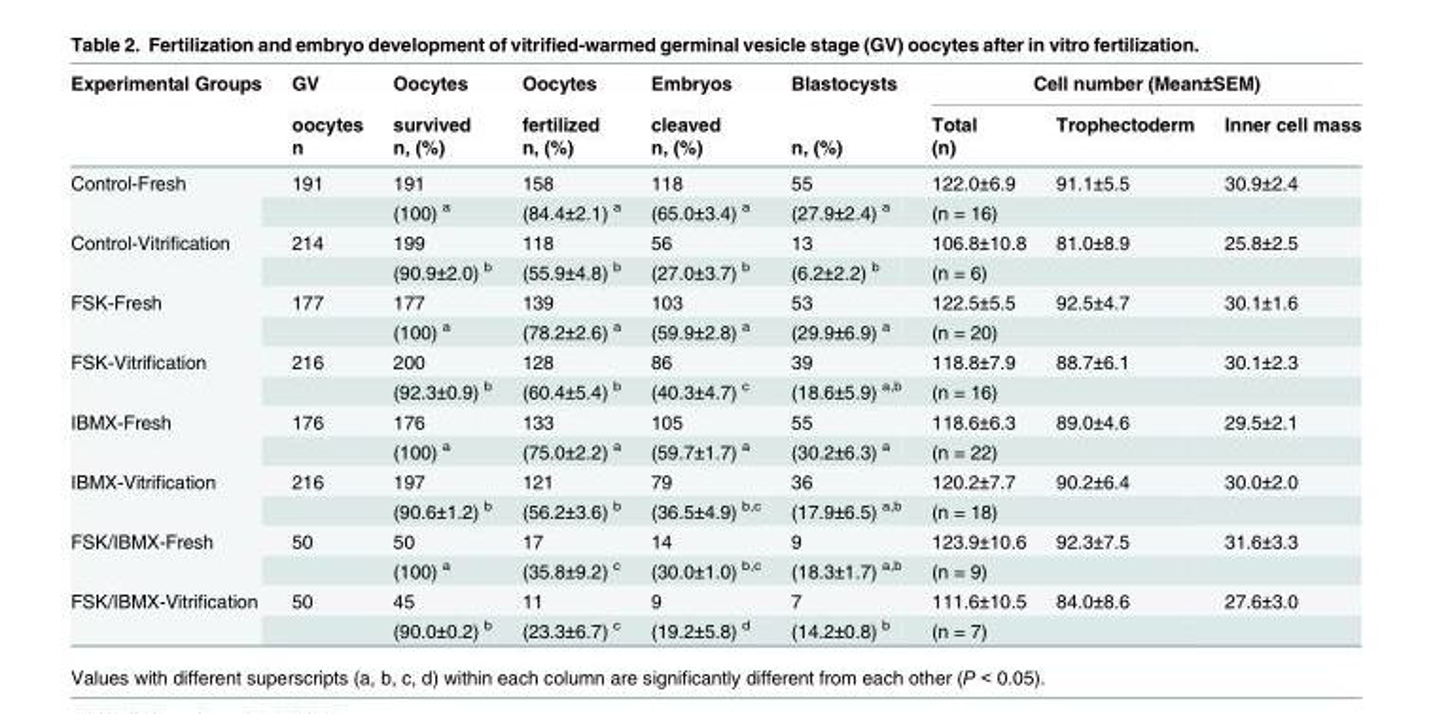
<table><thead><tr><td rowspan="3">Experimental Groups</td><td rowspan="3">GV oocytes n</td><td rowspan="3">Oocytes survived n, (%)</td><td rowspan="3">Oocytes fertilized n, (%)</td><td rowspan="3">Embryos cleaved n, (%)</td><td rowspan="3">Blastocysts n, (%)</td><td colspan="3">Cell number (Mean±SEM)</td></tr><tr><td rowspan="2">Total (n)</td><td rowspan="2">Trophectoderm</td><td rowspan="2">Inner cell mass</td></tr><tr></tr></thead><tbody><tr><td rowspan="2">Control-Fresh</td><td>191</td><td>191</td><td>158</td><td>118</td><td>55</td><td>122.0±6.9</td><td>91.1±5.5</td><td>30.9±2.4</td></tr><tr><td></td><td>(100) <sup>a</sup></td><td>(84.4±2.1) <sup>a</sup></td><td>(65.0±3.4) <sup>a</sup></td><td>(27.9±2.4) <sup>a</sup></td><td>(n = 16)</td><td></td><td></td></tr><tr><td rowspan="2">Control-Vitrification</td><td>214</td><td>199</td><td>118</td><td>56</td><td>13</td><td>106.8±10.8</td><td>81.0±8.9</td><td>25.8±2.5</td></tr><tr><td></td><td>(90.9±2.0) <sup>b</sup></td><td>(55.9±4.8) <sup>b</sup></td><td>(27.0±3.7) <sup>b</sup></td><td>(6.2±2.2) <sup>b</sup></td><td>(n = 6)</td><td></td><td></td></tr><tr><td rowspan="2">FSK-Fresh</td><td>177</td><td>177</td><td>139</td><td>103</td><td>53</td><td>122.5±5.5</td><td>92.5±4.7</td><td>30.1±1.6</td></tr><tr><td></td><td>(100) <sup>a</sup></td><td>(78.2±2.6) <sup>a</sup></td><td>(59.9±2.8) <sup>a</sup></td><td>(29.9±6.9) <sup>a</sup></td><td>(n = 20)</td><td></td><td></td></tr><tr><td rowspan="2">FSK-Vitrification</td><td>216</td><td>200</td><td>128</td><td>86</td><td>39</td><td>118.8±7.9</td><td>88.7±6.1</td><td>30.1±2.3</td></tr><tr><td></td><td>(92.3±0.9) <sup>b</sup></td><td>(60.4±5.4) <sup>b</sup></td><td>(40.3±4.7) <sup>c</sup></td><td>(18.6±5.9) <sup>a,b</sup></td><td>(n = 16)</td><td></td><td></td></tr><tr><td rowspan="2">IBMX-Fresh</td><td>176</td><td>176</td><td>133</td><td>105</td><td>55</td><td>118.6±6.3</td><td>89.0±4.6</td><td>29.5±2.1</td></tr><tr><td></td><td>(100) <sup>a</sup></td><td>(75.0±2.2) <sup>a</sup></td><td>(59.7±1.7) <sup>a</sup></td><td>(30.2±6.3) <sup>a</sup></td><td>(n = 22)</td><td></td><td></td></tr><tr><td rowspan="2">IBMX-Vitrification</td><td>216</td><td>197</td><td>121</td><td>79</td><td>36</td><td>120.2±7.7</td><td>90.2±6.4</td><td>30.0±2.0</td></tr><tr><td></td><td>(90.6±1.2) <sup>b</sup></td><td>(56.2±3.6) <sup>b</sup></td><td>(36.5±4.9) <sup>b,c</sup></td><td>(17.9±6.5) <sup>a,b</sup></td><td>(n = 18)</td><td></td><td></td></tr><tr><td rowspan="2">FSK/IBMX-Fresh</td><td>50</td><td>50</td><td>17</td><td>14</td><td>9</td><td>123.9±10.6</td><td>92.3±7.5</td><td>31.6±3.3</td></tr><tr><td></td><td>(100) <sup>a</sup></td><td>(35.8±9.2) <sup>c</sup></td><td>(30.0±1.0) <sup>b,c</sup></td><td>(18.3±1.7) <sup>a,b</sup></td><td>(n = 9)</td><td></td><td></td></tr><tr><td rowspan="2">FSK/IBMX-Vitrification</td><td>50</td><td>45</td><td>11</td><td>9</td><td>7</td><td>111.6±10.5</td><td>84.0±8.6</td><td>27.6±3.0</td></tr><tr><td></td><td>(90.0±0.2) <sup>b</sup></td><td>(23.3±6.7) <sup>c</sup></td><td>(19.2±5.8) <sup>d</sup></td><td>(14.2±0.8) <sup>b</sup></td><td>(n = 7)</td><td></td><td></td></tr></tbody></table>